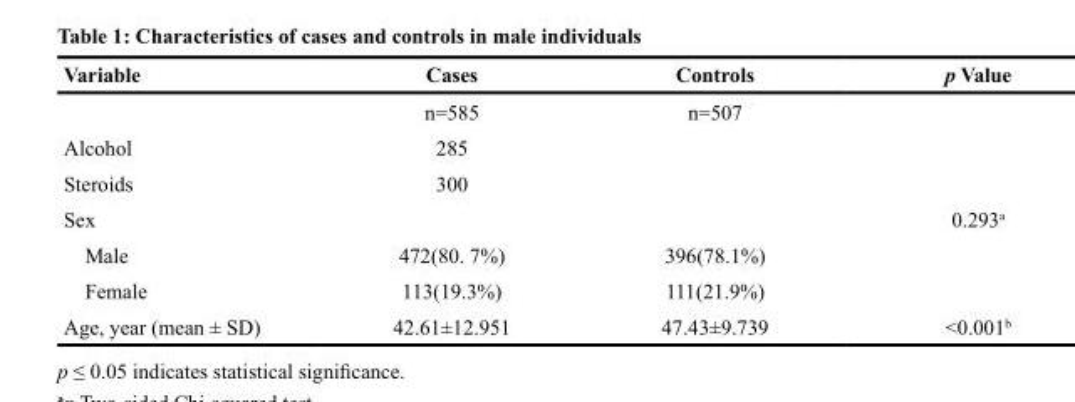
<table><thead><tr><td>Variable</td><td>Cases</td><td>Controls</td><td>p Value</td></tr></thead><tbody><tr><td></td><td>n=585</td><td>n=507</td><td></td></tr><tr><td>Alcohol</td><td>285</td><td></td><td></td></tr><tr><td>Steroids</td><td>300</td><td></td><td></td></tr><tr><td>Sex</td><td></td><td></td><td>0.293<sup>a</sup></td></tr><tr><td>Male</td><td>472(80. 7%)</td><td>396(78.1%)</td><td></td></tr><tr><td>Female</td><td>113(19.3%)</td><td>111(21.9%)</td><td></td></tr><tr><td>Age, year (mean ± SD)</td><td>42.61±12.951</td><td>47.43±9.739</td><td>&lt;0.001<sup>b</sup></td></tr></tbody></table>